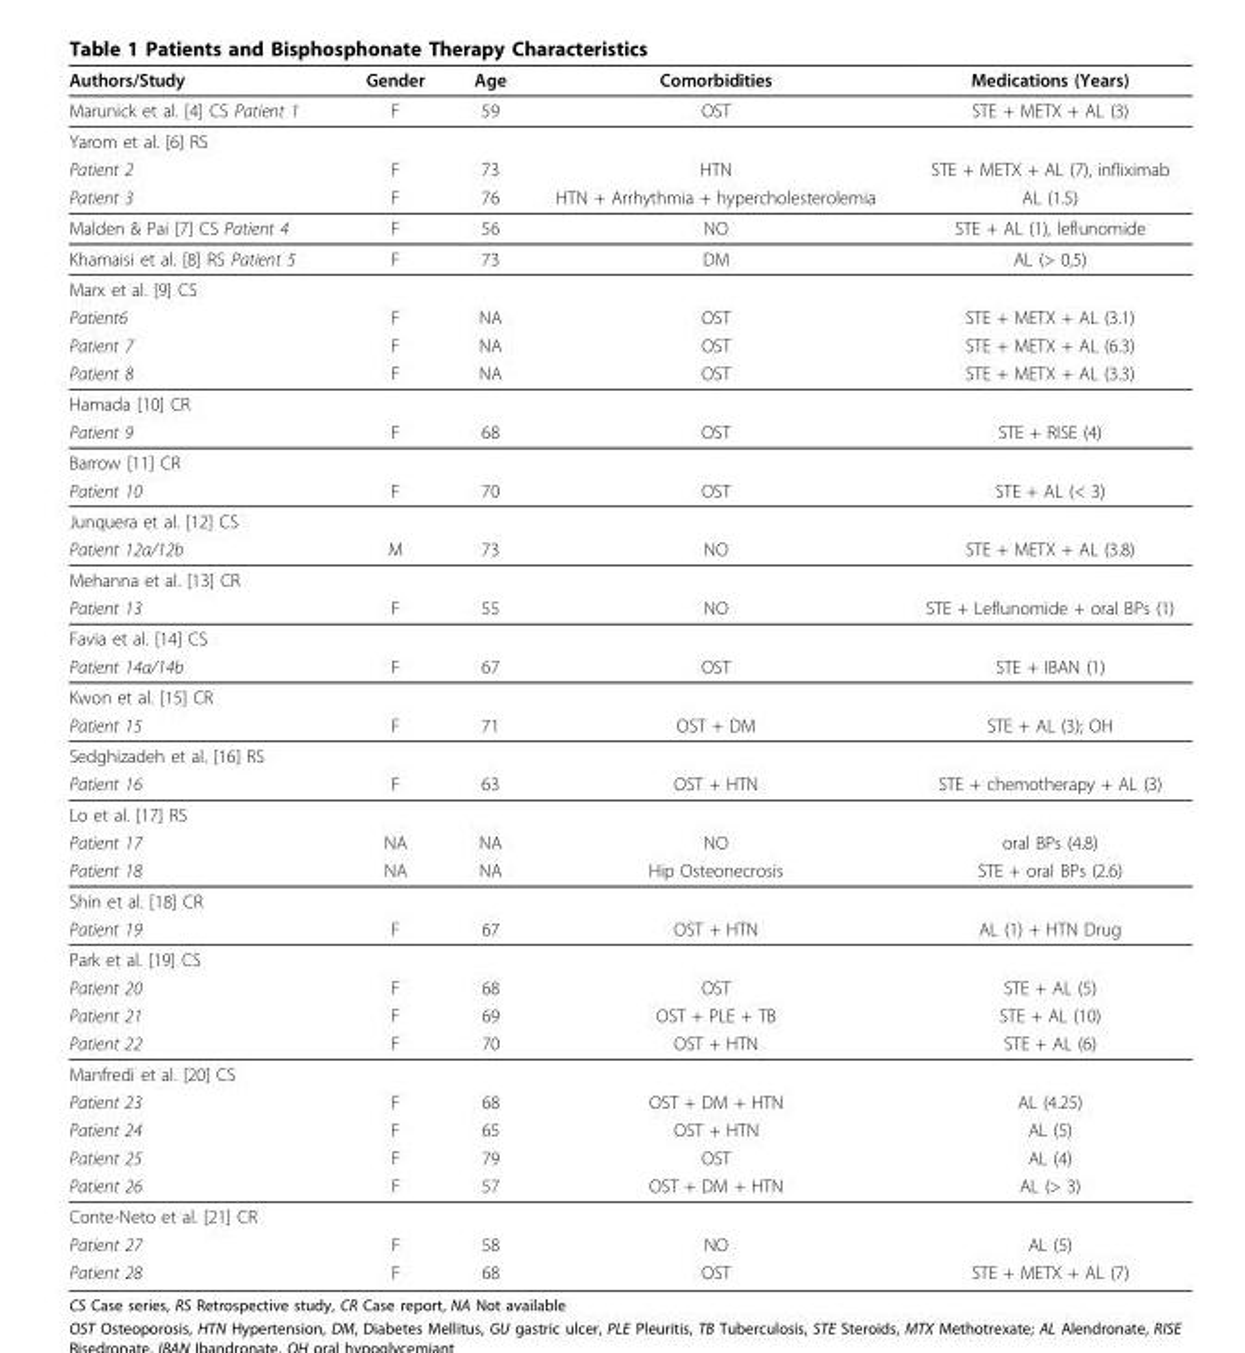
<table><thead><tr><td>Authors/Study</td><td>Gender</td><td>Age</td><td>Comorbidities</td><td>Medications (Years)</td></tr></thead><tbody><tr><td>Marunick et al. [4] CS Patient 1</td><td>F</td><td>59</td><td>OST</td><td>STE + METX + AL (3)</td></tr><tr><td colspan="5">Yarom et al. [6] RS</td></tr><tr><td>Patient 2</td><td>F</td><td>73</td><td>HTN</td><td>STE + METX + AL (7), infliximab</td></tr><tr><td>Patient 3</td><td>F</td><td>76</td><td>HTN + Arrhythmia + hypercholesterolemia</td><td>AL (1.5)</td></tr><tr><td>Malden &amp; Pai [7] CS Patient 4</td><td>F</td><td>56</td><td>NO</td><td>STE + AL (1), leflunomide</td></tr><tr><td>Khamaisi et al. [8] RS Patient 5</td><td>F</td><td>73</td><td>DM</td><td>AL (&gt; 0,5)</td></tr><tr><td colspan="5">Marx et al. [9] CS</td></tr><tr><td>Patient6</td><td>F</td><td>NA</td><td>OST</td><td>STE + METX + AL (3.1)</td></tr><tr><td>Patient 7</td><td>F</td><td>NA</td><td>OST</td><td>STE + METX + AL (6.3)</td></tr><tr><td>Patient 8</td><td>F</td><td>NA</td><td>OST</td><td>STE + METX + AL (3.3)</td></tr><tr><td colspan="5">Hamada [10] CR</td></tr><tr><td>Patient 9</td><td>F</td><td>68</td><td>OST</td><td>STE + RISE (4)</td></tr><tr><td colspan="5">Barrow [11] CR</td></tr><tr><td>Patient 10</td><td>F</td><td>70</td><td>OST</td><td>STE + AL (&lt; 3)</td></tr><tr><td colspan="5">Junquera et al. [12] CS</td></tr><tr><td>Patient 12a/12b</td><td>M</td><td>73</td><td>NO</td><td>STE + METX + AL (3.8)</td></tr><tr><td colspan="5">Mehanna et al. [13] CR</td></tr><tr><td>Patient 13</td><td>F</td><td>55</td><td>NO</td><td>STE + Leflunomide + oral BPs (1)</td></tr><tr><td colspan="5">Favia et al. [14] CS</td></tr><tr><td>Patient 14a/14b</td><td>F</td><td>67</td><td>OST</td><td>STE + IBAN (1)</td></tr><tr><td colspan="5">Kwon et al. [15] CR</td></tr><tr><td>Patient 15</td><td>F</td><td>71</td><td>OST + DM</td><td>STE + AL (3); OH</td></tr><tr><td colspan="5">Sedghizadeh et al. [16] RS</td></tr><tr><td>Patient 16</td><td>F</td><td>63</td><td>OST + HTN</td><td>STE + chemotherapy + AL (3)</td></tr><tr><td colspan="5">Lo et al. [17] RS</td></tr><tr><td>Patient 17</td><td>NA</td><td>NA</td><td>NO</td><td>oral BPs (4.8)</td></tr><tr><td>Patient 18</td><td>NA</td><td>NA</td><td>Hip Osteonecrosis</td><td>STE + oral BPs (2.6)</td></tr><tr><td colspan="5">Shin et al. [18] CR</td></tr><tr><td>Patient 19</td><td>F</td><td>67</td><td>OST + HTN</td><td>AL (1) + HTN Drug</td></tr><tr><td colspan="5">Park et al. [19] CS</td></tr><tr><td>Patient 20</td><td>F</td><td>68</td><td>OST</td><td>STE + AL (5)</td></tr><tr><td>Patient 21</td><td>F</td><td>69</td><td>OST + PLE + TB</td><td>STE + AL (10)</td></tr><tr><td>Patient 22</td><td>F</td><td>70</td><td>OST + HTN</td><td>STE + AL (6)</td></tr><tr><td colspan="5">Manfredi et al. [20] CS</td></tr><tr><td>Patient 23</td><td>F</td><td>68</td><td>OST + DM + HTN</td><td>AL (4.25)</td></tr><tr><td>Patient 24</td><td>F</td><td>65</td><td>OST + HTN</td><td>AL (5)</td></tr><tr><td>Patient 25</td><td>F</td><td>79</td><td>OST</td><td>AL (4)</td></tr><tr><td>Patient 26</td><td>F</td><td>57</td><td>OST + DM + HTN</td><td>AL (&gt; 3)</td></tr><tr><td colspan="5">Conte-Neto et al. [21] CR</td></tr><tr><td>Patient 27</td><td>F</td><td>58</td><td>NO</td><td>AL (5)</td></tr><tr><td>Patient 28</td><td>F</td><td>68</td><td>OST</td><td>STE + METX + AL (7)</td></tr></tbody></table>